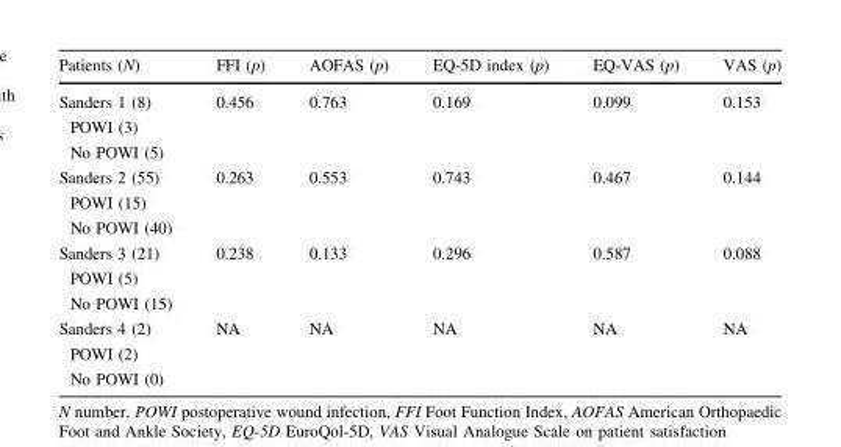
<table><thead><tr><td>Patients (N)</td><td>FFI (p)</td><td>AOFAS (p)</td><td>EQ-5D index (p)</td><td>EQ-VAS (p)</td><td>VAS (p)</td></tr></thead><tbody><tr><td>Sanders 1 (8)</td><td rowspan="3">0.456</td><td rowspan="3">0.763</td><td rowspan="3">0.169</td><td rowspan="3">0.099</td><td rowspan="3">0.153</td></tr><tr><td>POWI (3)</td></tr><tr><td>No POWI (5)</td></tr><tr><td>Sanders 2 (55)</td><td rowspan="3">0.263</td><td rowspan="3">0.553</td><td rowspan="3">0.743</td><td rowspan="3">0.467</td><td rowspan="3">0.144</td></tr><tr><td>POWI (15)</td></tr><tr><td>No POWI (40)</td></tr><tr><td>Sanders 3 (21)</td><td rowspan="3">0.238</td><td rowspan="3">0.133</td><td rowspan="3">0.296</td><td rowspan="3">0.587</td><td rowspan="3">0.088</td></tr><tr><td>POWI (5)</td></tr><tr><td>No POWI (15)</td></tr><tr><td>Sanders 4 (2)</td><td rowspan="3">NA</td><td rowspan="3">NA</td><td rowspan="3">NA</td><td rowspan="3">NA</td><td rowspan="3">NA</td></tr><tr><td>POWI (2)</td></tr><tr><td>No POWI (0)</td></tr></tbody></table>